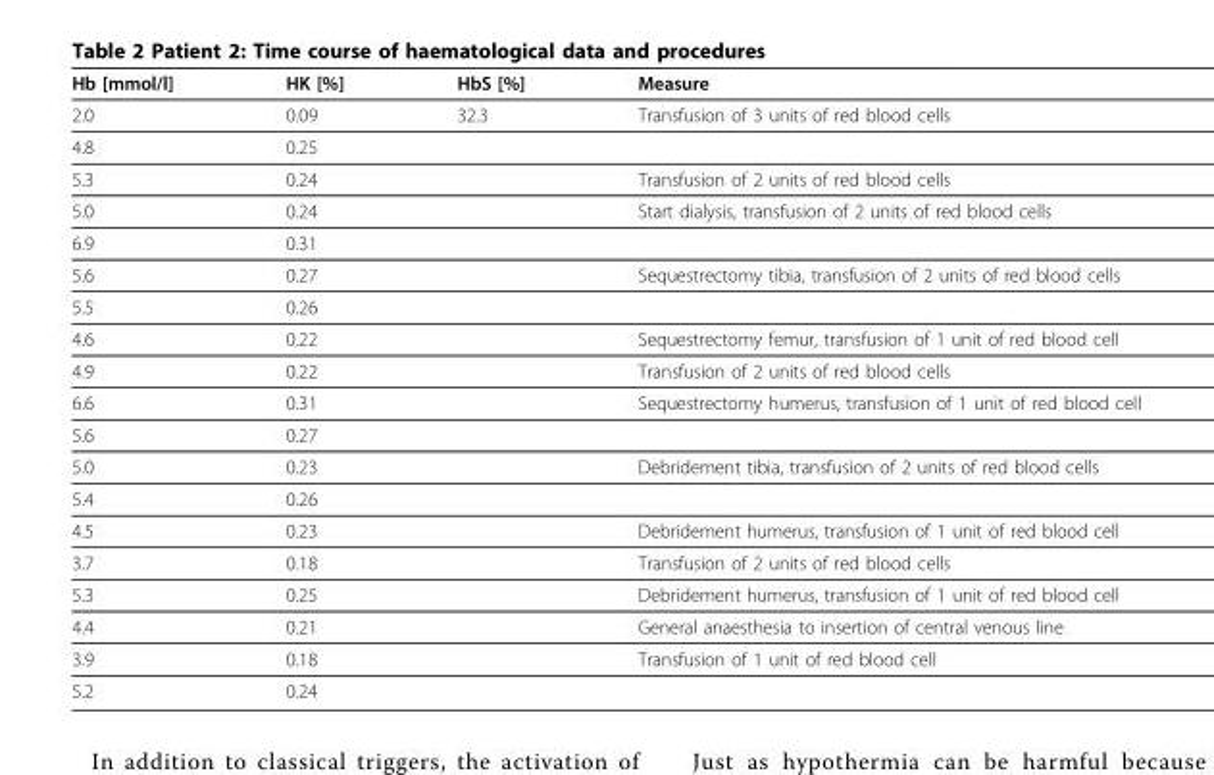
<table><thead><tr><td>Hb [mmol/l]</td><td>HK [%]</td><td>HbS [%]</td><td>Measure</td></tr></thead><tbody><tr><td>2.0</td><td>0.09</td><td>32.3</td><td>Transfusion of 3 units of red blood cells</td></tr><tr><td>4.8</td><td>0.25</td><td></td><td></td></tr><tr><td>5.3</td><td>0.24</td><td></td><td>Transfusion of 2 units of red blood cells</td></tr><tr><td>5.0</td><td>0.24</td><td></td><td>Start dialysis, transfusion of 2 units of red blood cells</td></tr><tr><td>6.9</td><td>0.31</td><td></td><td></td></tr><tr><td>5.6</td><td>0.27</td><td></td><td>Sequestrectomy tibia, transfusion of 2 units of red blood cells</td></tr><tr><td>5.5</td><td>0.26</td><td></td><td></td></tr><tr><td>4.6</td><td>0.22</td><td></td><td>Sequestrectomy femur, transfusion of 1 unit of red blood cell</td></tr><tr><td>4.9</td><td>0.22</td><td></td><td>Transfusion of 2 units of red blood cells</td></tr><tr><td>6.6</td><td>0.31</td><td></td><td>Sequestrectomy humerus, transfusion of 1 unit of red blood cell</td></tr><tr><td>5.6</td><td>0.27</td><td></td><td></td></tr><tr><td>5.0</td><td>0.23</td><td></td><td>Debridement tibia, transfusion of 2 units of red blood cells</td></tr><tr><td>5.4</td><td>0.26</td><td></td><td></td></tr><tr><td>4.5</td><td>0.23</td><td></td><td>Debridement humerus, transfusion of 1 unit of red blood cell</td></tr><tr><td>3.7</td><td>0.18</td><td></td><td>Transfusion of 2 units of red blood cells</td></tr><tr><td>5.3</td><td>0.25</td><td></td><td>Debridement humerus, transfusion of 1 unit of red blood cell</td></tr><tr><td>4.4</td><td>0.21</td><td></td><td>General anaesthesia to insertion of central venous line</td></tr><tr><td>3.9</td><td>0.18</td><td></td><td>Transfusion of 1 unit of red blood cell</td></tr><tr><td>5.2</td><td>0.24</td><td></td><td></td></tr></tbody></table>